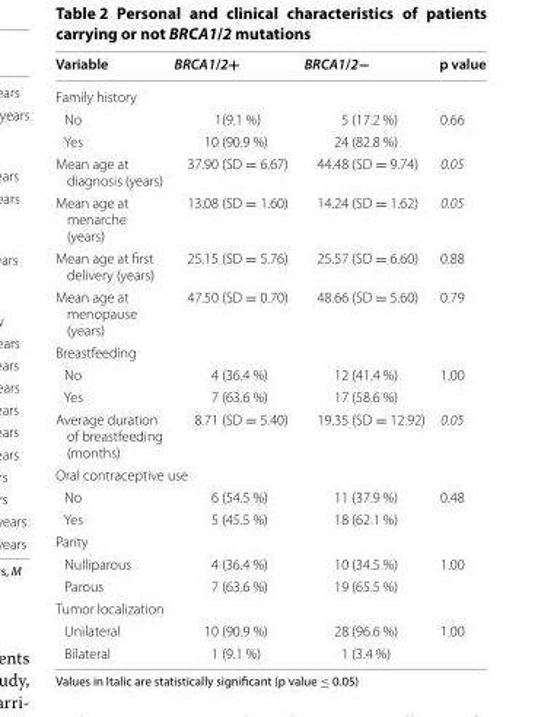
<table><thead><tr><td>Variable</td><td>BRCA1/2+</td><td>BRCA1/2−</td><td>p value</td></tr></thead><tbody><tr><td colspan="4">Family history</td></tr><tr><td>No</td><td>1(9.1 %)</td><td>5 (17.2 %)</td><td>0.66</td></tr><tr><td>Yes</td><td>10 (90.9 %)</td><td>24 (82.8 %)</td><td></td></tr><tr><td>Mean age at diagnosis (years)</td><td>37.90 (SD = 6.67)</td><td>44.48 (SD = 9.74)</td><td>0.05</td></tr><tr><td>Mean age at menarche (years)</td><td>13.08 (SD = 1.60)</td><td>14.24 (SD = 1.62)</td><td>0.05</td></tr><tr><td>Mean age at first delivery (years)</td><td>25.15 (SD = 5.76)</td><td>25.57 (SD = 6.60)</td><td>0.88</td></tr><tr><td>Mean age at menopause (years)</td><td>47.50 (SD = 0.70)</td><td>48.66 (SD = 5.60)</td><td>0.79</td></tr><tr><td colspan="4">Breastfeeding</td></tr><tr><td>No</td><td>4 (36.4 %)</td><td>12 (41.4 %)</td><td>1.00</td></tr><tr><td>Yes</td><td>7 (63.6 %)</td><td>17 (58.6 %)</td><td></td></tr><tr><td>Average duration of breastfeeding (months)</td><td>8.71 (SD = 5.40)</td><td>19.35 (SD = 12.92)</td><td>0.05</td></tr><tr><td colspan="4">Oral contraceptive use</td></tr><tr><td>No</td><td>6 (54.5 %)</td><td>11 (37.9 %)</td><td>0.48</td></tr><tr><td>Yes</td><td>5 (45.5 %)</td><td>18 (62.1 %)</td><td></td></tr><tr><td colspan="4">Parity</td></tr><tr><td>Nulliparous</td><td>4 (36.4 %)</td><td>10 (34.5 %)</td><td>1.00</td></tr><tr><td>Parous</td><td>7 (63.6 %)</td><td>19 (65.5 %)</td><td></td></tr><tr><td colspan="4">Tumor localization</td></tr><tr><td>Unilateral</td><td>10 (90.9 %)</td><td>28 (96.6 %)</td><td>1.00</td></tr><tr><td>Bilateral</td><td>1 (9.1 %)</td><td>1 (3.4 %)</td><td></td></tr></tbody></table>